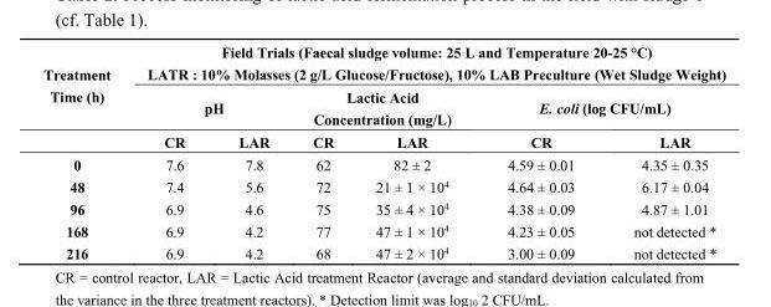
<table><thead><tr><td rowspan="3">Treatment Time (h)</td><td colspan="6">Field Trials (Faecal sludge volume: 25 L and Temperature 20-25 °C) LATR : 10% Molasses (2 g/L Glucose/Fructose), 10% LAB Preculture (Wet Sludge Weight)</td></tr><tr><td colspan="2">pH</td><td colspan="2">Lactic Acid Concentration (mg/L)</td><td colspan="2">E. coli (log CFU/mL)</td></tr><tr><td>CR</td><td>LAR</td><td>CR</td><td>LAR</td><td>CR</td><td>LAR</td></tr></thead><tbody><tr><td>0</td><td>7.6</td><td>7.8</td><td>62</td><td>82 ± 2</td><td>4.59 ± 0.01</td><td>4.35 ± 0.35</td></tr><tr><td>48</td><td>7.4</td><td>5.6</td><td>72</td><td>21 ± 1 × 10<sup>4</sup></td><td>4.64 ± 0.03</td><td>6.17 ± 0.04</td></tr><tr><td>96</td><td>6.9</td><td>4.6</td><td>75</td><td>35 ± 4 × 10<sup>4</sup></td><td>4.38 ± 0.09</td><td>4.87 ± 1.01</td></tr><tr><td>168</td><td>6.9</td><td>4.2</td><td>77</td><td>47 ± 1 × 10<sup>4</sup></td><td>4.23 ± 0.05</td><td>not detected *</td></tr><tr><td>216</td><td>6.9</td><td>4.2</td><td>68</td><td>47 ± 2 × 10<sup>4</sup></td><td>3.00 ± 0.09</td><td>not detected *</td></tr></tbody></table>